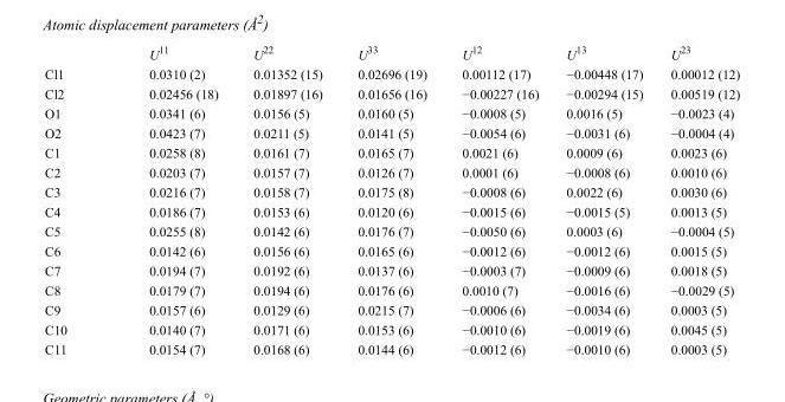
<table><thead><tr><td></td><td>U<sup>11</sup></td><td>U<sup>22</sup></td><td>U<sup>33</sup></td><td>U<sup>12</sup></td><td>U<sup>13</sup></td><td>U<sup>23</sup></td></tr></thead><tbody><tr><td>Cl1</td><td>0.0310 (2)</td><td>0.01352 (15)</td><td>0.02696 (19)</td><td>0.00112 (17)</td><td>−0.00448 (17)</td><td>0.00012 (12)</td></tr><tr><td>Cl2</td><td>0.02456 (18)</td><td>0.01897 (16)</td><td>0.01656 (16)</td><td>−0.00227 (16)</td><td>−0.00294 (15)</td><td>0.00519 (12)</td></tr><tr><td>O1</td><td>0.0341 (6)</td><td>0.0156 (5)</td><td>0.0160 (5)</td><td>−0.0008 (5)</td><td>0.0016 (5)</td><td>−0.0023 (4)</td></tr><tr><td>O2</td><td>0.0423 (7)</td><td>0.0211 (5)</td><td>0.0141 (5)</td><td>−0.0054 (6)</td><td>−0.0031 (6)</td><td>−0.0004 (4)</td></tr><tr><td>C1</td><td>0.0258 (8)</td><td>0.0161 (7)</td><td>0.0165 (7)</td><td>0.0021 (6)</td><td>0.0009 (6)</td><td>0.0023 (6)</td></tr><tr><td>C2</td><td>0.0203 (7)</td><td>0.0157 (7)</td><td>0.0126 (7)</td><td>0.0001 (6)</td><td>−0.0008 (6)</td><td>0.0010 (6)</td></tr><tr><td>C3</td><td>0.0216 (7)</td><td>0.0158 (7)</td><td>0.0175 (8)</td><td>−0.0008 (6)</td><td>0.0022 (6)</td><td>0.0030 (6)</td></tr><tr><td>C4</td><td>0.0186 (7)</td><td>0.0153 (6)</td><td>0.0120 (6)</td><td>−0.0015 (6)</td><td>−0.0015 (5)</td><td>0.0013 (5)</td></tr><tr><td>C5</td><td>0.0255 (8)</td><td>0.0142 (6)</td><td>0.0176 (7)</td><td>−0.0050 (6)</td><td>0.0003 (6)</td><td>−0.0004 (5)</td></tr><tr><td>C6</td><td>0.0142 (6)</td><td>0.0156 (6)</td><td>0.0165 (6)</td><td>−0.0012 (6)</td><td>−0.0012 (6)</td><td>0.0015 (5)</td></tr><tr><td>C7</td><td>0.0194 (7)</td><td>0.0192 (6)</td><td>0.0137 (6)</td><td>−0.0003 (7)</td><td>−0.0009 (6)</td><td>0.0018 (5)</td></tr><tr><td>C8</td><td>0.0179 (7)</td><td>0.0194 (6)</td><td>0.0176 (6)</td><td>0.0010 (7)</td><td>−0.0016 (6)</td><td>−0.0029 (5)</td></tr><tr><td>C9</td><td>0.0157 (6)</td><td>0.0129 (6)</td><td>0.0215 (7)</td><td>−0.0006 (6)</td><td>−0.0034 (6)</td><td>0.0003 (5)</td></tr><tr><td>C10</td><td>0.0140 (7)</td><td>0.0171 (6)</td><td>0.0153 (6)</td><td>−0.0010 (6)</td><td>−0.0019 (6)</td><td>0.0045 (5)</td></tr><tr><td>C11</td><td>0.0154 (7)</td><td>0.0168 (6)</td><td>0.0144 (6)</td><td>−0.0012 (6)</td><td>−0.0010 (6)</td><td>0.0003 (5)</td></tr></tbody></table>